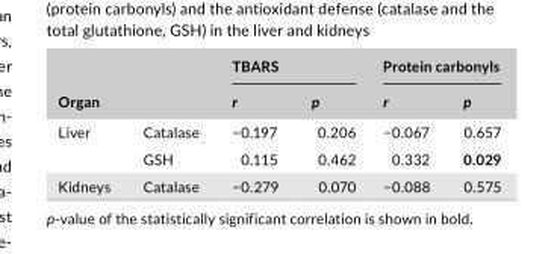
<table><thead><tr><td rowspan="2">Organ</td><td rowspan="2"></td><td colspan="2">TBARS</td><td colspan="2">Protein carbonyls</td></tr><tr><td>r</td><td>p</td><td>r</td><td>p</td></tr></thead><tbody><tr><td rowspan="2">Liver</td><td>Catalase</td><td>−0.197</td><td>0.206</td><td>−0.067</td><td>0.657</td></tr><tr><td>GSH</td><td>0.115</td><td>0.462</td><td>0.332</td><td>0.029</td></tr><tr><td>Kidneys</td><td>Catalase</td><td>−0.279</td><td>0.070</td><td>−0.088</td><td>0.575</td></tr></tbody></table>